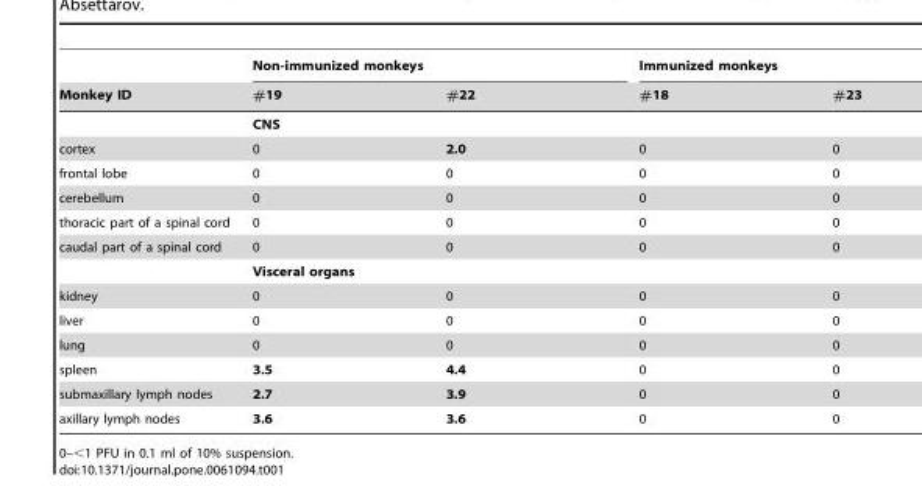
<table><thead><tr><td rowspan="2">Monkey ID</td><td colspan="2">Non-immunized monkeys</td><td colspan="2">Immunized monkeys</td></tr><tr><td>#19</td><td>#22</td><td>#18</td><td>#23</td></tr></thead><tbody><tr><td></td><td colspan="4">CNS</td></tr><tr><td>cortex</td><td>0</td><td>2.0</td><td>0</td><td>0</td></tr><tr><td>frontal lobe</td><td>0</td><td>0</td><td>0</td><td>0</td></tr><tr><td>cerebellum</td><td>0</td><td>0</td><td>0</td><td>0</td></tr><tr><td>thoracic part of a spinal cord</td><td>0</td><td>0</td><td>0</td><td>0</td></tr><tr><td rowspan="2">caudal part of a spinal cord</td><td>0</td><td>0</td><td>0</td><td>0</td></tr><tr><td colspan="4">Visceral organs</td></tr><tr><td>kidney</td><td>0</td><td>0</td><td>0</td><td>0</td></tr><tr><td>liver</td><td>0</td><td>0</td><td>0</td><td>0</td></tr><tr><td>lung</td><td>0</td><td>0</td><td>0</td><td>0</td></tr><tr><td>spleen</td><td>3.5</td><td>4.4</td><td>0</td><td>0</td></tr><tr><td>submaxillary lymph nodes</td><td>2.7</td><td>3.9</td><td>0</td><td>0</td></tr><tr><td>axillary lymph nodes</td><td>3.6</td><td>3.6</td><td>0</td><td>0</td></tr></tbody></table>